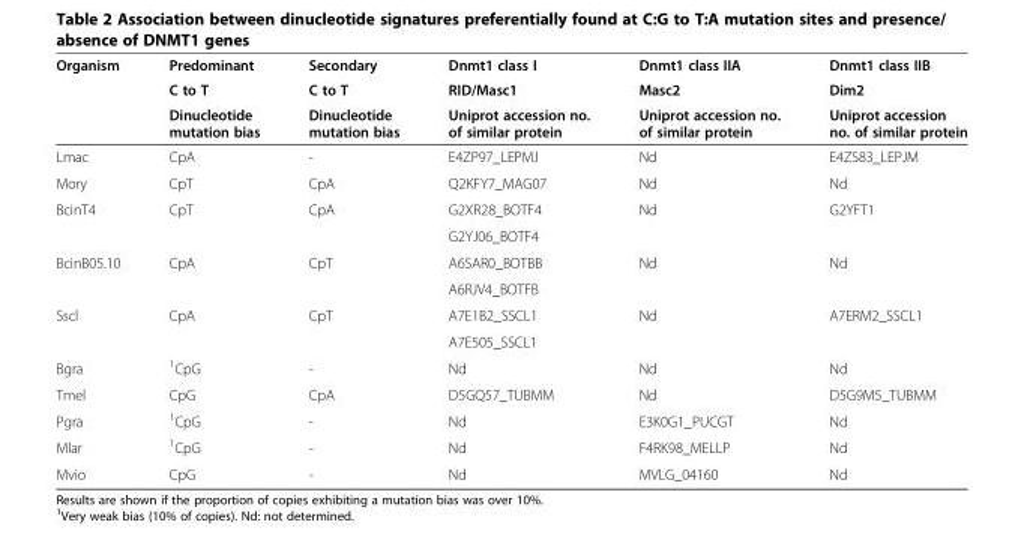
<table><thead><tr><td rowspan="3">Organism</td><td rowspan="3">Predominant C to T Dinucleotide mutation bias</td><td rowspan="3">Secondary C to T Dinucleotide mutation bias</td><td rowspan="3">Dnmt1 class I RID/Masc1 Uniprot accession no. of similar protein</td><td rowspan="3">Dnmt1 class IIA Masc2 Uniprot accession no. of similar protein</td><td rowspan="3">Dnmt1 class IIB Dim2 Uniprot accession no. of similar protein</td></tr><tr></tr><tr></tr></thead><tbody><tr><td>Lmac</td><td>CpA</td><td>-</td><td>E4ZP97_LEPMJ</td><td>Nd</td><td>E4ZS83_LEPJM</td></tr><tr><td>Mory</td><td>CpT</td><td>CpA</td><td>Q2KFY7_MAG07</td><td>Nd</td><td>Nd</td></tr><tr><td rowspan="2">BcinT4</td><td rowspan="2">CpT</td><td rowspan="2">CpA</td><td>G2XR28_BOTF4</td><td rowspan="2">Nd</td><td rowspan="2">G2YFT1</td></tr><tr><td>G2YJ06_BOTF4</td></tr><tr><td rowspan="2">BcinB05.10</td><td rowspan="2">CpA</td><td rowspan="2">CpT</td><td>A6SAR0_BOTBB</td><td rowspan="2">Nd</td><td rowspan="2">Nd</td></tr><tr><td>A6RJV4_BOTFB</td></tr><tr><td rowspan="2">Sscl</td><td rowspan="2">CpA</td><td rowspan="2">CpT</td><td>A7E1B2_SSCL1</td><td rowspan="2">Nd</td><td rowspan="2">A7ERM2_SSCL1</td></tr><tr><td>A7E505_SSCL1</td></tr><tr><td>Bgra</td><td><sup>1</sup>CpG</td><td>-</td><td>Nd</td><td>Nd</td><td>Nd</td></tr><tr><td>Tmel</td><td>CpG</td><td>CpA</td><td>D5GQ57_TUBMM</td><td>Nd</td><td>D5G9M5_TUBMM</td></tr><tr><td>Pgra</td><td><sup>1</sup>CpG</td><td>-</td><td>Nd</td><td>E3K0G1_PUCGT</td><td>Nd</td></tr><tr><td>Mlar</td><td><sup>1</sup>CpG</td><td>-</td><td>Nd</td><td>F4RK98_MELLP</td><td>Nd</td></tr><tr><td>Mvio</td><td>CpG</td><td>-</td><td>Nd</td><td>MVLG_04160</td><td>Nd</td></tr></tbody></table>